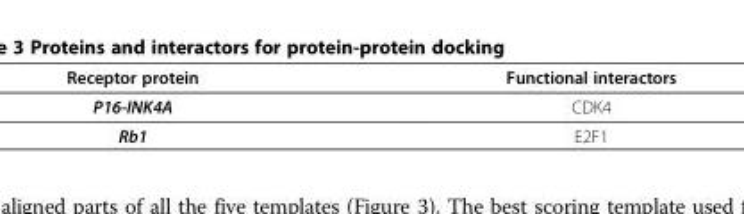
<table><thead><tr><td>Receptor protein</td><td>Functional interactors</td></tr></thead><tbody><tr><td>P16-INK4A</td><td>CDK4</td></tr><tr><td>Rb1</td><td>E2F1</td></tr></tbody></table>